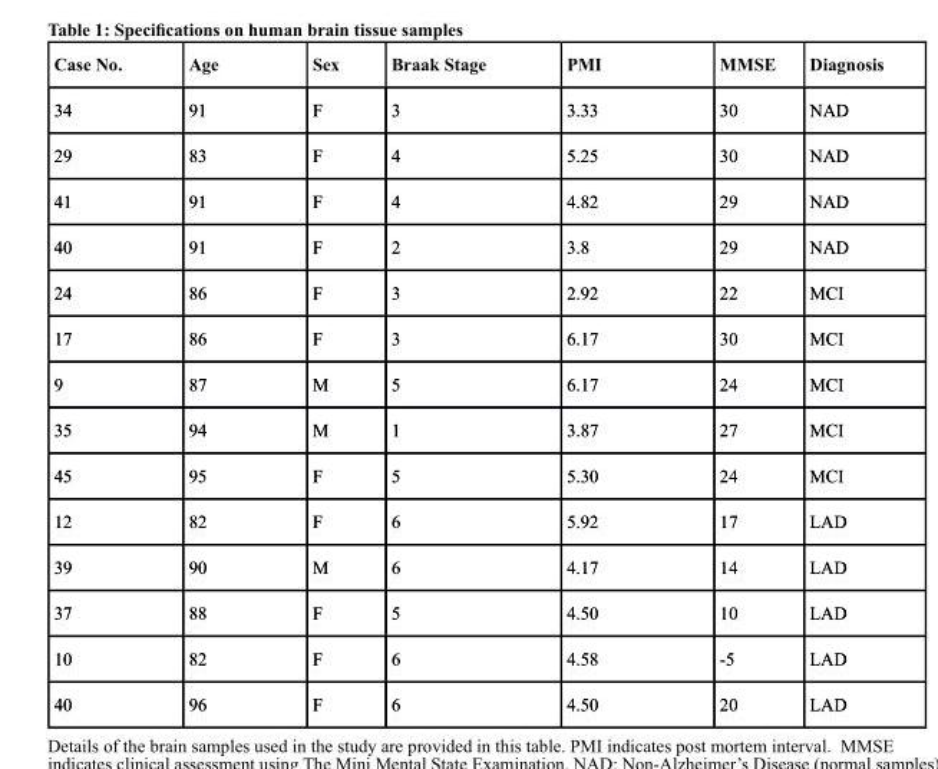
<table><thead><tr><td>case no.</td><td>Age</td><td>sex</td><td>braak stage</td><td>PMI</td><td>MMse</td><td>diagnosis</td></tr></thead><tbody><tr><td>34</td><td>91</td><td>F</td><td>3</td><td>3.33</td><td>30</td><td>NAD</td></tr><tr><td>29</td><td>83</td><td>F</td><td>4</td><td>5.25</td><td>30</td><td>NAD</td></tr><tr><td>41</td><td>91</td><td>F</td><td>4</td><td>4.82</td><td>29</td><td>NAD</td></tr><tr><td>40</td><td>91</td><td>F</td><td>2</td><td>3.8</td><td>29</td><td>NAD</td></tr><tr><td>24</td><td>86</td><td>F</td><td>3</td><td>2.92</td><td>22</td><td>MCI</td></tr><tr><td>17</td><td>86</td><td>F</td><td>3</td><td>6.17</td><td>30</td><td>MCI</td></tr><tr><td>9</td><td>87</td><td>M</td><td>5</td><td>6.17</td><td>24</td><td>MCI</td></tr><tr><td>35</td><td>94</td><td>M</td><td>1</td><td>3.87</td><td>27</td><td>MCI</td></tr><tr><td>45</td><td>95</td><td>F</td><td>5</td><td>5.30</td><td>24</td><td>MCI</td></tr><tr><td>12</td><td>82</td><td>F</td><td>6</td><td>5.92</td><td>17</td><td>LAD</td></tr><tr><td>39</td><td>90</td><td>M</td><td>6</td><td>4.17</td><td>14</td><td>LAD</td></tr><tr><td>37</td><td>88</td><td>F</td><td>5</td><td>4.50</td><td>10</td><td>LAD</td></tr><tr><td>10</td><td>82</td><td>F</td><td>6</td><td>4.58</td><td>-5</td><td>LAD</td></tr><tr><td>40</td><td>96</td><td>F</td><td>6</td><td>4.50</td><td>20</td><td>LAD</td></tr></tbody></table>